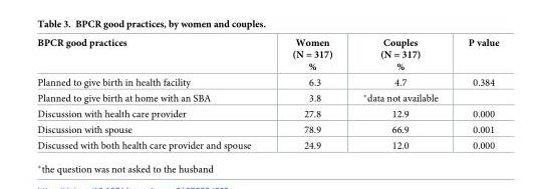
<table><thead><tr><td>BPCR good practices</td><td>Women (N = 317) %</td><td>Couples (N = 317) %</td><td>P value</td></tr></thead><tbody><tr><td>Planned to give birth in health facility</td><td>6.3</td><td>4.7</td><td>0.384</td></tr><tr><td>Planned to give birth at home with an SBA</td><td>3.8</td><td>*data not available</td><td></td></tr><tr><td>Discussion with health care provider</td><td>27.8</td><td>12.9</td><td>0.000</td></tr><tr><td>Discussion with spouse</td><td>78.9</td><td>66.9</td><td>0.001</td></tr><tr><td>Discussed with both health care provider and spouse</td><td>24.9</td><td>12.0</td><td>0.000</td></tr></tbody></table>